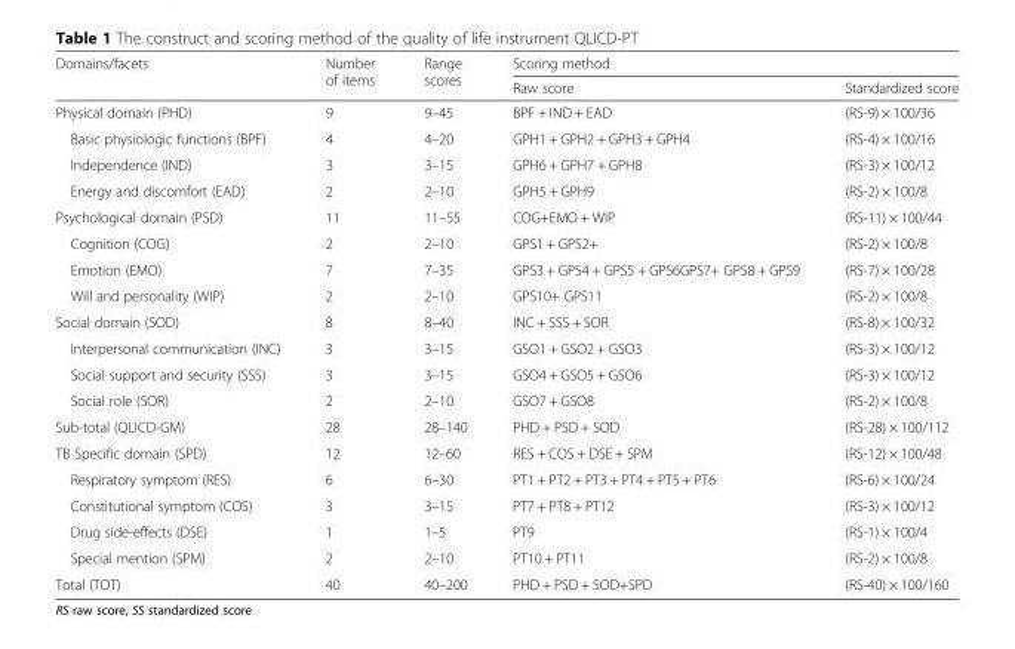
<table><thead><tr><td rowspan="2">Domains/facets</td><td rowspan="2">Number of items</td><td rowspan="2">Range scores</td><td colspan="2">Scoring method</td></tr><tr><td>Raw score</td><td>Standardized score</td></tr></thead><tbody><tr><td>Physical domain (PHD)</td><td>9</td><td>9–45</td><td>BPF + IND + EAD</td><td>(RS-9) × 100/36</td></tr><tr><td>Basic physiologic functions (BPF)</td><td>4</td><td>4–20</td><td>GPH1 + GPH2 + GPH3 + GPH4</td><td>(RS-4) × 100/16</td></tr><tr><td>Independence (IND)</td><td>3</td><td>3–15</td><td>GPH6 + GPH7 + GPH8</td><td>(RS-3) × 100/12</td></tr><tr><td>Energy and discomfort (EAD)</td><td>2</td><td>2–10</td><td>GPH5 + GPH9</td><td>(RS-2) × 100/8</td></tr><tr><td>Psychological domain (PSD)</td><td>11</td><td>11–55</td><td>COG+EMO + WIP</td><td>(RS-11) × 100/44</td></tr><tr><td>Cognition (COG)</td><td>2</td><td>2–10</td><td>GPS1 + GPS2+</td><td>(RS-2) × 100/8</td></tr><tr><td>Emotion (EMO)</td><td>7</td><td>7–35</td><td>GPS3 + GPS4 + GPS5 + GPS6GPS7+ GPS8 + GPS9</td><td>(RS-7) × 100/28</td></tr><tr><td>Will and personality (WIP)</td><td>2</td><td>2–10</td><td>GPS10+ GPS11</td><td>(RS-2) × 100/8</td></tr><tr><td>Social domain (SOD)</td><td>8</td><td>8–40</td><td>INC + SSS + SOR</td><td>(RS-8) × 100/32</td></tr><tr><td>Interpersonal communication (INC)</td><td>3</td><td>3–15</td><td>GSO1 + GSO2 + GSO3</td><td>(RS-3) × 100/12</td></tr><tr><td>Social support and security (SSS)</td><td>3</td><td>3–15</td><td>GSO4 + GSO5 + GSO6</td><td>(RS-3) × 100/12</td></tr><tr><td>Social role (SOR)</td><td>2</td><td>2–10</td><td>GSO7 + GSO8</td><td>(RS-2) × 100/8</td></tr><tr><td>Sub-total (QLICD-GM)</td><td>28</td><td>28–140</td><td>PHD + PSD + SOD</td><td>(RS-28) × 100/112</td></tr><tr><td>TB Specific domain (SPD)</td><td>12</td><td>12–60</td><td>RES + COS + DSE + SPM</td><td>(RS-12) × 100/48</td></tr><tr><td>Respiratory symptom (RES)</td><td>6</td><td>6–30</td><td>PT1 + PT2 + PT3 + PT4 + PT5 + PT6</td><td>(RS-6) × 100/24</td></tr><tr><td>Constitutional symptom (COS)</td><td>3</td><td>3–15</td><td>PT7 + PT8 + PT12</td><td>(RS-3) × 100/12</td></tr><tr><td>Drug side-effects (DSE)</td><td>1</td><td>1–5</td><td>PT9</td><td>(RS-1) × 100/4</td></tr><tr><td>Special mention (SPM)</td><td>2</td><td>2–10</td><td>PT10 + PT11</td><td>(RS-2) × 100/8</td></tr><tr><td>Total (TOT)</td><td>40</td><td>40–200</td><td>PHD + PSD + SOD+SPD</td><td>(RS-40) × 100/160</td></tr></tbody></table>